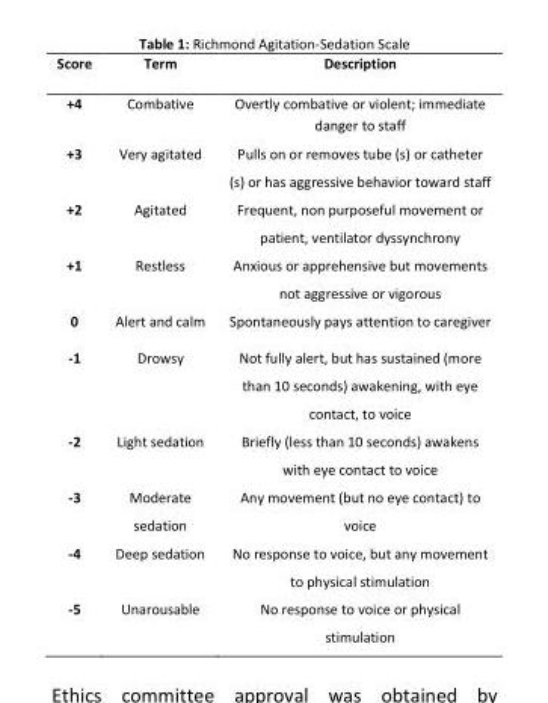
<table><thead><tr><td>Score</td><td>Term</td><td>Description</td></tr></thead><tbody><tr><td>+4</td><td>Combative</td><td>Overtly combative or violent; immediate danger to staff</td></tr><tr><td>+3</td><td>Very agitated</td><td>Pulls on or removes tube (s) or catheter (s) or has aggressive behavior toward staff</td></tr><tr><td>+2</td><td>Agitated</td><td>Frequent, non purposeful movement or patient, ventilator dyssynchrony</td></tr><tr><td>+1</td><td>Restless</td><td>Anxious or apprehensive but movements not aggressive or vigorous</td></tr><tr><td>0</td><td>Alert and calm</td><td>Spontaneously pays attention to caregiver</td></tr><tr><td>-1</td><td>Drowsy</td><td>Not fully alert, but has sustained (more than 10 seconds) awakening, with eye contact, to voice</td></tr><tr><td>-2</td><td>Light sedation</td><td>Briefly (less than 10 seconds) awakens with eye contact to voice</td></tr><tr><td>-3</td><td>Moderate sedation</td><td>Any movement (but no eye contact) to voice</td></tr><tr><td>-4</td><td>Deep sedation</td><td>No response to voice, but any movement to physical stimulation</td></tr><tr><td>-5</td><td>Unarousable</td><td>No response to voice or physical stimulation</td></tr></tbody></table>